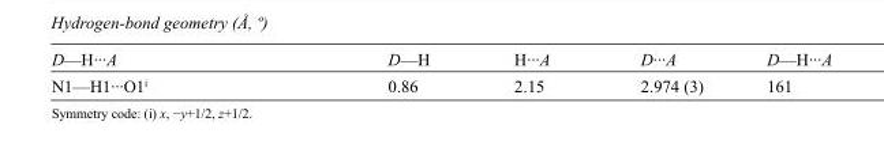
<table><tbody><tr><td>D—H···A</td><td>D—H</td><td>H···A</td><td>D···A</td><td>D—H···A</td></tr><tr><td>N1—H1···O1<sup>i</sup></td><td>0.86</td><td>2.15</td><td>2.974 (3)</td><td>161</td></tr></tbody></table>